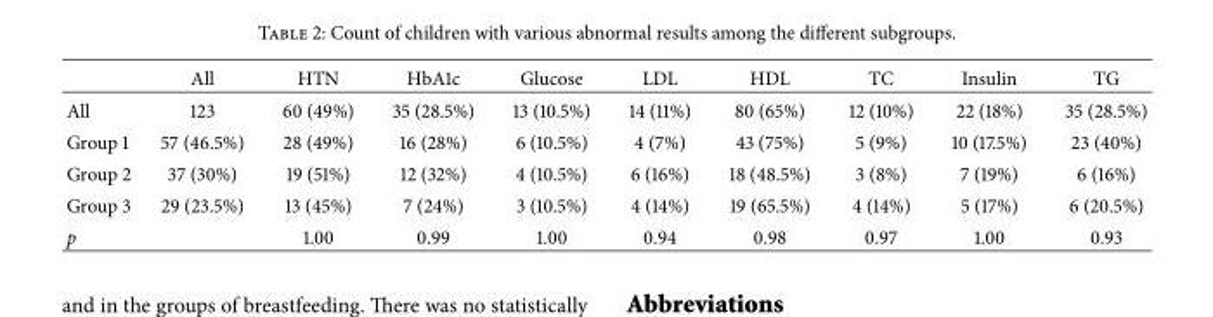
<table><thead><tr><td></td><td>All</td><td>HTN</td><td>HbA1c</td><td>Glucose</td><td>LDL</td><td>HDL</td><td>TC</td><td>Insulin</td><td>TG</td></tr></thead><tbody><tr><td>All</td><td>123</td><td>60 (49%)</td><td>35 (28.5%)</td><td>13 (10.5%)</td><td>14 (11%)</td><td>80 (65%)</td><td>12 (10%)</td><td>22 (18%)</td><td>35 (28.5%)</td></tr><tr><td>Group 1</td><td>57 (46.5%)</td><td>28 (49%)</td><td>16 (28%)</td><td>6 (10.5%)</td><td>4 (7%)</td><td>43 (75%)</td><td>5 (9%)</td><td>10 (17.5%)</td><td>23 (40%)</td></tr><tr><td>Group 2</td><td>37 (30%)</td><td>19 (51%)</td><td>12 (32%)</td><td>4 (10.5%)</td><td>6 (16%)</td><td>18 (48.5%)</td><td>3 (8%)</td><td>7 (19%)</td><td>6 (16%)</td></tr><tr><td>Group 3</td><td>29 (23.5%)</td><td>13 (45%)</td><td>7 (24%)</td><td>3 (10.5%)</td><td>4 (14%)</td><td>19 (65.5%)</td><td>4 (14%)</td><td>5 (17%)</td><td>6 (20.5%)</td></tr><tr><td>p</td><td></td><td>1.00</td><td>0.99</td><td>1.00</td><td>0.94</td><td>0.98</td><td>0.97</td><td>1.00</td><td>0.93</td></tr></tbody></table>